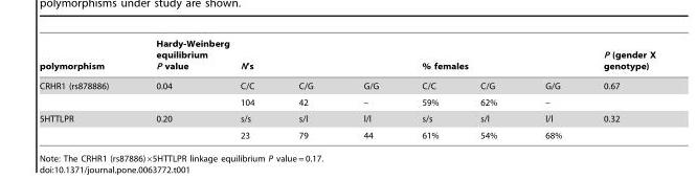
<table><thead><tr><td rowspan="2">polymorphism CRHR1 (rs878886)</td><td rowspan="2">Hardy-Weinberg equilibrium P value 0.04</td><td colspan="3">N’s</td><td colspan="3">% females</td><td rowspan="2">P (gender X genotype) 0.67</td></tr><tr><td>C/C</td><td>C/G</td><td>G/G</td><td>C/C</td><td>C/G</td><td>G/G</td></tr></thead><tbody><tr><td></td><td></td><td>104</td><td>42</td><td>–</td><td>59%</td><td>62%</td><td>–</td><td></td></tr><tr><td rowspan="2">5HTTLPR</td><td>0.20</td><td>s/s</td><td>s/l</td><td>l/l</td><td>s/s</td><td>s/l</td><td>l/l</td><td>0.32</td></tr><tr><td></td><td>23</td><td>79</td><td>44</td><td>61%</td><td>54%</td><td>68%</td><td></td></tr></tbody></table>